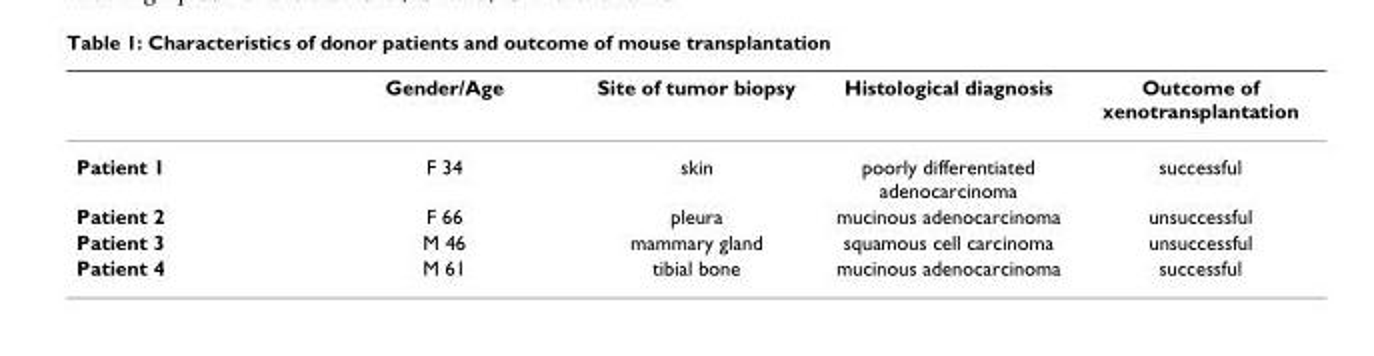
<table><thead><tr><td></td><td>Gender/Age</td><td>Site of tumor biopsy</td><td>Histological diagnosis</td><td>Outcome of xenotransplantation</td></tr></thead><tbody><tr><td>Patient 1</td><td>F 34</td><td>skin</td><td>poorly differentiated adenocarcinoma</td><td>successful</td></tr><tr><td>Patient 2</td><td>F 66</td><td>pleura</td><td>mucinous adenocarcinoma</td><td>unsuccessful</td></tr><tr><td>Patient 3</td><td>M 46</td><td>mammary gland</td><td>squamous cell carcinoma</td><td>unsuccessful</td></tr><tr><td>Patient 4</td><td>M 61</td><td>tibial bone</td><td>mucinous adenocarcinoma</td><td>successful</td></tr></tbody></table>